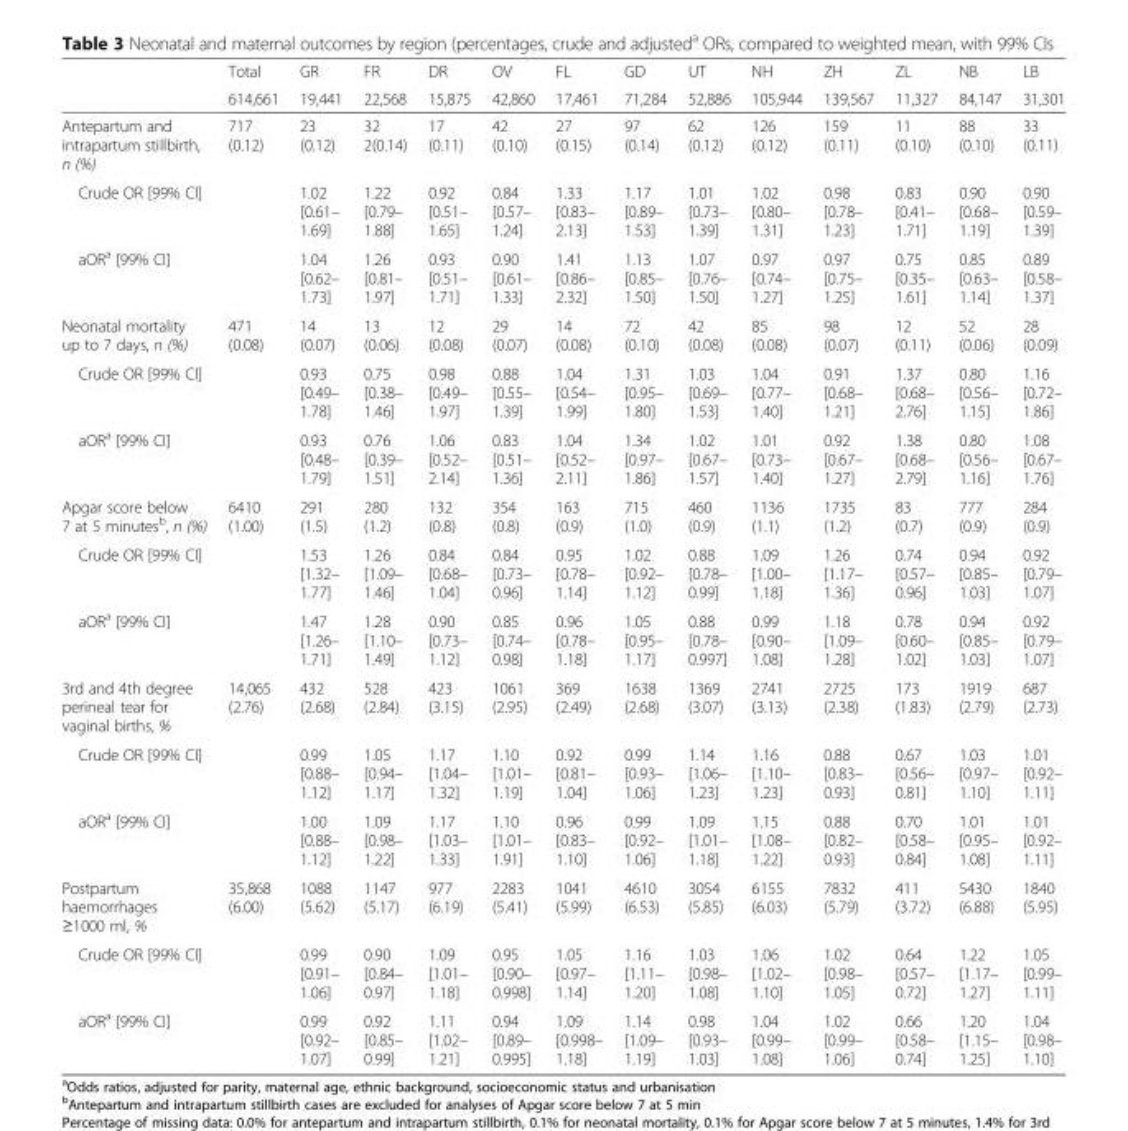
<table><thead><tr><td rowspan="2"></td><td rowspan="2">Total 614,661</td><td rowspan="2">GR 19,441</td><td rowspan="2">FR 22,568</td><td rowspan="2">DR 15,875</td><td rowspan="2">OV 42,860</td><td rowspan="2">FL 17,461</td><td rowspan="2">GD 71,284</td><td rowspan="2">UT 52,886</td><td rowspan="2">NH 105,944</td><td rowspan="2">ZH 139,567</td><td rowspan="2">ZL 11,327</td><td rowspan="2">NB 84,147</td><td rowspan="2">LB 31,301</td></tr><tr></tr></thead><tbody><tr><td>Antepartum and intrapartum stillbirth, n (%)</td><td>717 (0.12)</td><td>23 (0.12)</td><td>32 2(0.14)</td><td>17 (0.11)</td><td>42 (0.10)</td><td>27 (0.15)</td><td>97 (0.14)</td><td>62 (0.12)</td><td>126 (0.12)</td><td>159 (0.11)</td><td>11 (0.10)</td><td>88 (0.10)</td><td>33 (0.11)</td></tr><tr><td>Crude OR [99% CI]</td><td></td><td>1.02 [0.61– 1.69]</td><td>1.22 [0.79– 1.88]</td><td>0.92 [0.51– 1.65]</td><td>0.84 [0.57– 1.24]</td><td>1.33 [0.83– 2.13]</td><td>1.17 [0.89– 1.53]</td><td>1.01 [0.73– 1.39]</td><td>1.02 [0.80– 1.31]</td><td>0.98 [0.78– 1.23]</td><td>0.83 [0.41– 1.71]</td><td>0.90 [0.68– 1.19]</td><td>0.90 [0.59– 1.39]</td></tr><tr><td>aOR<sup>a</sup> [99% CI]</td><td></td><td>1.04 [0.62– 1.73]</td><td>1.26 [0.81– 1.97]</td><td>0.93 [0.51– 1.71]</td><td>0.90 [0.61– 1.33]</td><td>1.41 [0.86– 2.32]</td><td>1.13 [0.85– 1.50]</td><td>1.07 [0.76– 1.50]</td><td>0.97 [0.74– 1.27]</td><td>0.97 [0.75– 1.25]</td><td>0.75 [0.35– 1.61]</td><td>0.85 [0.63– 1.14]</td><td>0.89 [0.58– 1.37]</td></tr><tr><td>Neonatal mortality up to 7 days, n (%)</td><td>471 (0.08)</td><td>14 (0.07)</td><td>13 (0.06)</td><td>12 (0.08)</td><td>29 (0.07)</td><td>14 (0.08)</td><td>72 (0.10)</td><td>42 (0.08)</td><td>85 (0.08)</td><td>98 (0.07)</td><td>12 (0.11)</td><td>52 (0.06)</td><td>28 (0.09)</td></tr><tr><td>Crude OR [99% CI]</td><td></td><td>0.93 [0.49– 1.78]</td><td>0.75 [0.38– 1.46]</td><td>0.98 [0.49– 1.97]</td><td>0.88 [0.55– 1.39]</td><td>1.04 [0.54– 1.99]</td><td>1.31 [0.95– 1.80]</td><td>1.03 [0.69– 1.53]</td><td>1.04 [0.77– 1.40]</td><td>0.91 [0.68– 1.21]</td><td>1.37 [0.68– 2.76]</td><td>0.80 [0.56– 1.15]</td><td>1.16 [0.72– 1.86]</td></tr><tr><td>aOR<sup>a</sup> [99% CI]</td><td></td><td>0.93 [0.48– 1.79]</td><td>0.76 [0.39– 1.51]</td><td>1.06 [0.52– 2.14]</td><td>0.83 [0.51– 1.36]</td><td>1.04 [0.52– 2.11]</td><td>1.34 [0.97– 1.86]</td><td>1.02 [0.67– 1.57]</td><td>1.01 [0.73– 1.40]</td><td>0.92 [0.67– 1.27]</td><td>1.38 [0.68– 2.79]</td><td>0.80 [0.56– 1.16]</td><td>1.08 [0.67– 1.76]</td></tr><tr><td>Apgar score below 7 at 5 minutes<sup>b</sup>, n (%)</td><td>6410 (1.00)</td><td>291 (1.5)</td><td>280 (1.2)</td><td>132 (0.8)</td><td>354 (0.8)</td><td>163 (0.9)</td><td>715 (1.0)</td><td>460 (0.9)</td><td>1136 (1.1)</td><td>1735 (1.2)</td><td>83 (0.7)</td><td>777 (0.9)</td><td>284 (0.9)</td></tr><tr><td>Crude OR [99% CI]</td><td></td><td>1.53 [1.32– 1.77]</td><td>1.26 [1.09– 1.46]</td><td>0.84 [0.68– 1.04]</td><td>0.84 [0.73– 0.96]</td><td>0.95 [0.78– 1.14]</td><td>1.02 [0.92– 1.12]</td><td>0.88 [0.78– 0.99]</td><td>1.09 [1.00– 1.18]</td><td>1.26 [1.17– 1.36]</td><td>0.74 [0.57– 0.96]</td><td>0.94 [0.85– 1.03]</td><td>0.92 [0.79– 1.07]</td></tr><tr><td>aOR<sup>a</sup> [99% CI]</td><td></td><td>1.47 [1.26– 1.71]</td><td>1.28 [1.10– 1.49]</td><td>0.90 [0.73– 1.12]</td><td>0.85 [0.74– 0.98]</td><td>0.96 [0.78– 1.18]</td><td>1.05 [0.95– 1.17]</td><td>0.88 [0.78– 0.997]</td><td>0.99 [0.90– 1.08]</td><td>1.18 [1.09– 1.28]</td><td>0.78 [0.60– 1.02]</td><td>0.94 [0.85– 1.03]</td><td>0.92 [0.79– 1.07]</td></tr><tr><td>3rd and 4th degree perineal tear for vaginal births, %</td><td>14,065 (2.76)</td><td>432 (2.68)</td><td>528 (2.84)</td><td>423 (3.15)</td><td>1061 (2.95)</td><td>369 (2.49)</td><td>1638 (2.68)</td><td>1369 (3.07)</td><td>2741 (3.13)</td><td>2725 (2.38)</td><td>173 (1.83)</td><td>1919 (2.79)</td><td>687 (2.73)</td></tr><tr><td>Crude OR [99% CI]</td><td></td><td>0.99 [0.88– 1.12]</td><td>1.05 [0.94– 1.17]</td><td>1.17 [1.04– 1.32]</td><td>1.10 [1.01– 1.19]</td><td>0.92 [0.81– 1.04]</td><td>0.99 [0.93– 1.06]</td><td>1.14 [1.06– 1.23]</td><td>1.16 [1.10– 1.23]</td><td>0.88 [0.83– 0.93]</td><td>0.67 [0.56– 0.81]</td><td>1.03 [0.97– 1.10]</td><td>1.01 [0.92– 1.11]</td></tr><tr><td>aOR<sup>a</sup> [99% CI]</td><td></td><td>1.00 [0.88– 1.12]</td><td>1.09 [0.98– 1.22]</td><td>1.17 [1.03– 1.33]</td><td>1.10 [1.01– 1.91]</td><td>0.96 [0.83– 1.10]</td><td>0.99 [0.92– 1.06]</td><td>1.09 [1.01– 1.18]</td><td>1.15 [1.08– 1.22]</td><td>0.88 [0.82– 0.93]</td><td>0.70 [0.58– 0.84]</td><td>1.01 [0.95– 1.08]</td><td>1.01 [0.92– 1.11]</td></tr><tr><td>Postpartum haemorrhages ≥1000 ml, %</td><td>35,868 (6.00)</td><td>1088 (5.62)</td><td>1147 (5.17)</td><td>977 (6.19)</td><td>2283 (5.41)</td><td>1041 (5.99)</td><td>4610 (6.53)</td><td>3054 (5.85)</td><td>6155 (6.03)</td><td>7832 (5.79)</td><td>411 (3.72)</td><td>5430 (6.88)</td><td>1840 (5.95)</td></tr><tr><td>Crude OR [99% CI]</td><td></td><td>0.99 [0.91– 1.06]</td><td>0.90 [0.84– 0.97]</td><td>1.09 [1.01– 1.18]</td><td>0.95 [0.90– 0.998]</td><td>1.05 [0.97– 1.14]</td><td>1.16 [1.11– 1.20]</td><td>1.03 [0.98– 1.08]</td><td>1.06 [1.02– 1.10]</td><td>1.02 [0.98– 1.05]</td><td>0.64 [0.57– 0.72]</td><td>1.22 [1.17– 1.27]</td><td>1.05 [0.99– 1.11]</td></tr><tr><td>aOR<sup>a</sup> [99% CI]</td><td></td><td>0.99 [0.92– 1.07]</td><td>0.92 [0.85– 0.99]</td><td>1.11 [1.02– 1.21]</td><td>0.94 [0.89– 0.995]</td><td>1.09 [0.998– 1.18]</td><td>1.14 [1.09– 1.19]</td><td>0.98 [0.93– 1.03]</td><td>1.04 [0.99– 1.08]</td><td>1.02 [0.99– 1.06]</td><td>0.66 [0.58– 0.74]</td><td>1.20 [1.15– 1.25]</td><td>1.04 [0.98– 1.10]</td></tr></tbody></table>